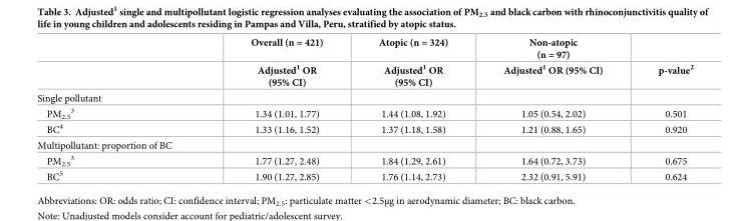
<table><thead><tr><td rowspan="2"></td><td rowspan="2">Overall (n = 421) Adjusted<sup>1</sup> OR (95% CI)</td><td rowspan="2">Atopic (n = 324) Adjusted<sup>1</sup> OR (95% CI)</td><td rowspan="2">Non-atopic (n = 97) Adjusted<sup>1</sup> OR (95% CI)</td><td rowspan="2">p-value<sup>2</sup></td></tr><tr></tr></thead><tbody><tr><td colspan="5">Single pollutant</td></tr><tr><td>PM<sub>2.5</sub> <sup>3</sup></td><td>1.34 (1.01, 1.77)</td><td>1.44 (1.08, 1.92)</td><td>1.05 (0.54, 2.02)</td><td>0.501</td></tr><tr><td>BC<sup>4</sup></td><td>1.33 (1.16, 1.52)</td><td>1.37 (1.18, 1.58)</td><td>1.21 (0.88, 1.65)</td><td>0.920</td></tr><tr><td colspan="5">Multipollutant: proportion of BC</td></tr><tr><td>PM<sub>2.5</sub> <sup>3</sup></td><td>1.77 (1.27, 2.48)</td><td>1.84 (1.29, 2.61)</td><td>1.64 (0.72, 3.73)</td><td>0.675</td></tr><tr><td>BC<sup>5</sup></td><td>1.90 (1.27, 2.85)</td><td>1.76 (1.14, 2.73)</td><td>2.32 (0.91, 5.91)</td><td>0.624</td></tr></tbody></table>